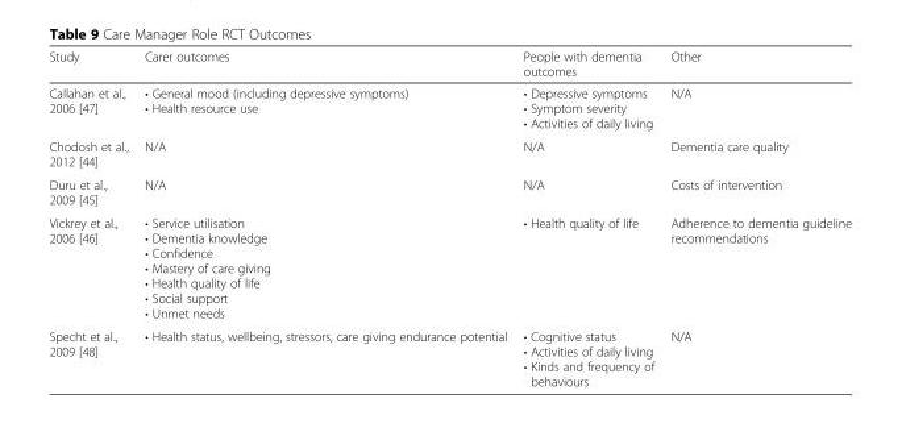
<table><thead><tr><td>Study</td><td>Carer outcomes</td><td>People with dementia outcomes</td><td>Other</td></tr></thead><tbody><tr><td>Callahan et al., 2006 [47]</td><td>• General mood (including depressive symptoms) • Health resource use</td><td>• Depressive symptoms • Symptom severity • Activities of daily living</td><td>N/A</td></tr><tr><td>Chodosh et al., 2012 [44]</td><td>N/A</td><td>N/A</td><td>Dementia care quality</td></tr><tr><td>Duru et al., 2009 [45]</td><td>N/A</td><td>N/A</td><td>Costs of intervention</td></tr><tr><td>Vickrey et al., 2006 [46]</td><td>• Service utilisation • Dementia knowledge • Confidence • Mastery of care giving • Health quality of life • Social support • Unmet needs</td><td>• Health quality of life</td><td>Adherence to dementia guideline recommendations</td></tr><tr><td>Specht et al., 2009 [48]</td><td>• Health status, wellbeing, stressors, care giving endurance potential</td><td>• Cognitive status • Activities of daily living • Kinds and frequency of behaviours</td><td>N/A</td></tr></tbody></table>